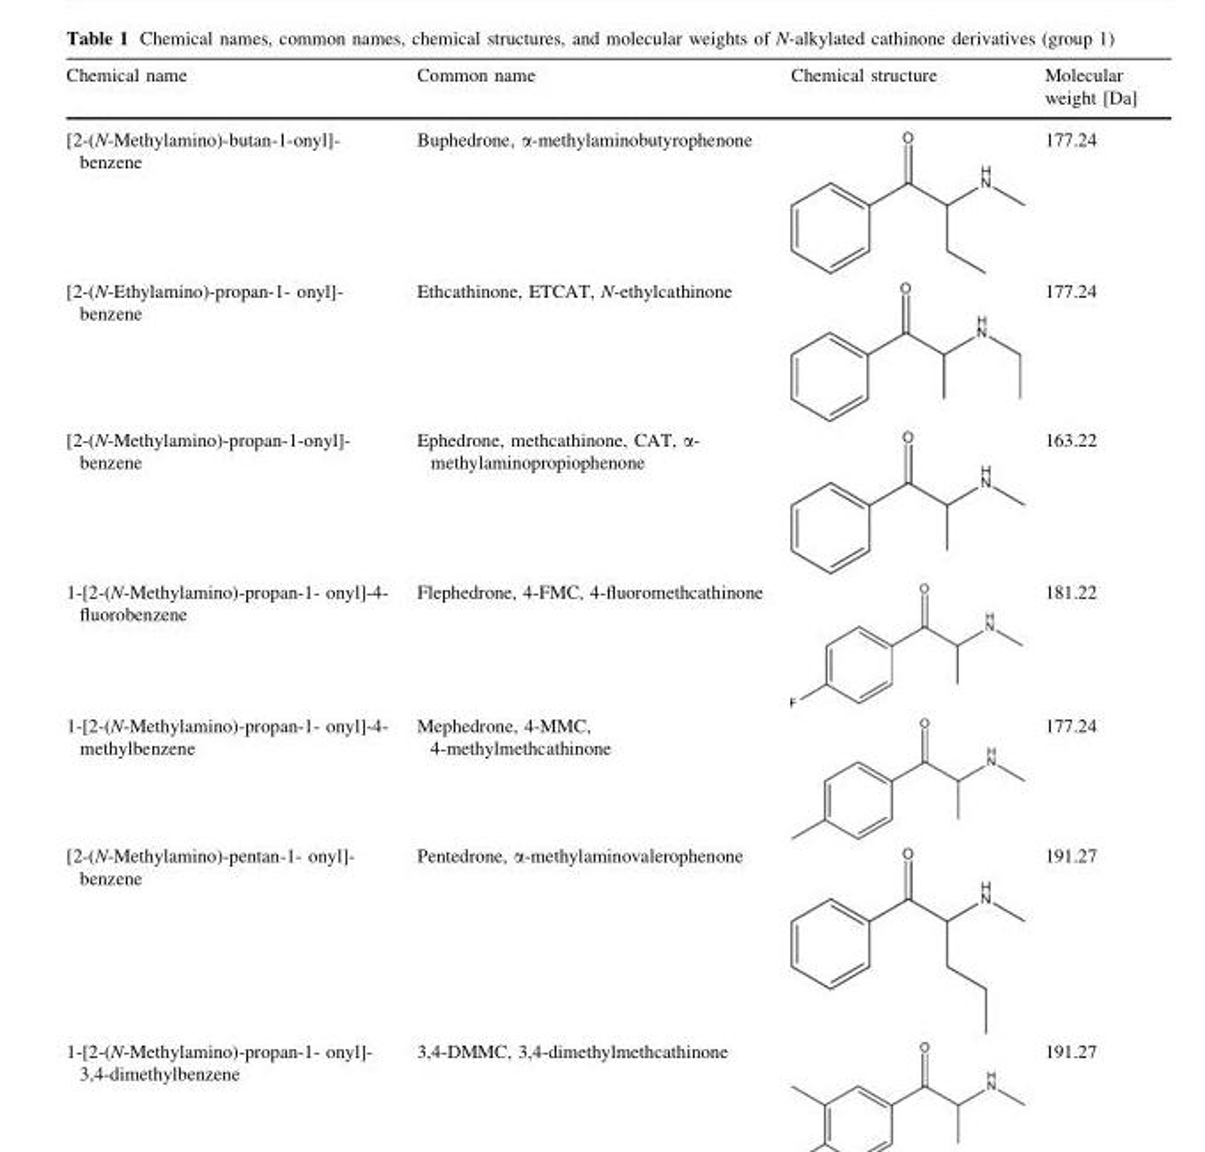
<table><thead><tr><td>Chemical name</td><td>Common name</td><td>Chemical structure</td><td>Molecular weight [Da]</td></tr></thead><tbody><tr><td>[2-(N-Methylamino)-butan-1-onyl]- benzene</td><td>Buphedrone, α-methylaminobutyrophenone</td><td></td><td>177.24</td></tr><tr><td>[2-(N-Ethylamino)-propan-1- onyl]- benzene</td><td>Ethcathinone, ETCAT, N-ethylcathinone</td><td></td><td>177.24</td></tr><tr><td>[2-(N-Methylamino)-propan-1-onyl]- benzene</td><td>Ephedrone, methcathinone, CAT, α- methylaminopropiophenone</td><td></td><td>163.22</td></tr><tr><td>1-[2-(N-Methylamino)-propan-1- onyl]-4- fluorobenzene</td><td>Flephedrone, 4-FMC, 4-fluoromethcathinone</td><td></td><td>181.22</td></tr><tr><td>1-[2-(N-Methylamino)-propan-1- onyl]-4- methylbenzene</td><td>Mephedrone, 4-MMC, 4-methylmethcathinone</td><td></td><td>177.24</td></tr><tr><td>[2-(N-Methylamino)-pentan-1- onyl]- benzene</td><td>Pentedrone, α-methylaminovalerophenone</td><td></td><td>191.27</td></tr><tr><td>1-[2-(N-Methylamino)-propan-1- onyl]- 3,4-dimethylbenzene</td><td>3,4-DMMC, 3,4-dimethylmethcathinone</td><td></td><td>191.27</td></tr></tbody></table>